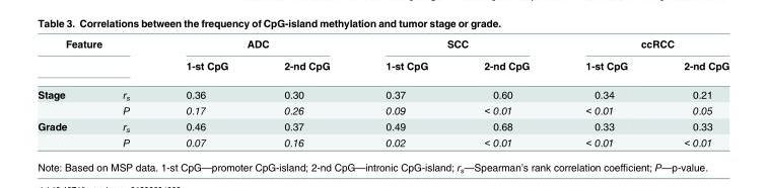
<table><thead><tr><td colspan="2">Feature</td><td colspan="2">ADC</td><td colspan="2">SCC</td><td colspan="2">ccRCC</td></tr><tr><td></td><td></td><td>1-st CpG</td><td>2-nd CpG</td><td>1-st CpG</td><td>2-nd CpG</td><td>1-st CpG</td><td>2-nd CpG</td></tr></thead><tbody><tr><td rowspan="2">Stage</td><td>r<sub>s</sub></td><td>0.36</td><td>0.30</td><td>0.37</td><td>0.60</td><td>0.34</td><td>0.21</td></tr><tr><td>P</td><td>0.17</td><td>0.26</td><td>0.09</td><td>&lt; 0.01</td><td>&lt; 0.01</td><td>0.05</td></tr><tr><td rowspan="2">Grade</td><td>r<sub>s</sub></td><td>0.46</td><td>0.37</td><td>0.49</td><td>0.68</td><td>0.33</td><td>0.33</td></tr><tr><td>P</td><td>0.07</td><td>0.16</td><td>0.02</td><td>&lt; 0.01</td><td>&lt; 0.01</td><td>&lt; 0.01</td></tr></tbody></table>